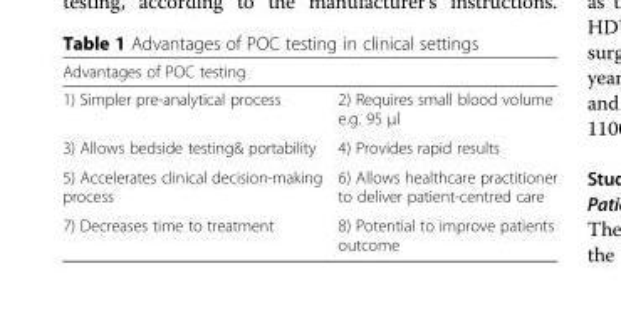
<table><thead><tr><td colspan="2">Advantages of POC testing</td></tr><tr><td>1) Simpler pre-analytical process</td><td>2) Requires small blood volume e.g. 95 μl</td></tr></thead><tbody><tr><td>3) Allows bedside testing&amp; portability</td><td>4) Provides rapid results</td></tr><tr><td>5) Accelerates clinical decision-making process</td><td>6) Allows healthcare practitioner to deliver patient-centred care</td></tr><tr><td>7) Decreases time to treatment</td><td>8) Potential to improve patients outcome</td></tr></tbody></table>